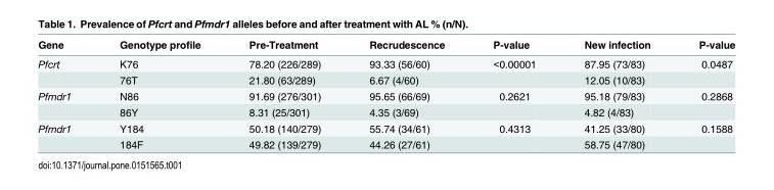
<table><thead><tr><td>Gene</td><td>Genotype profile</td><td>Pre-Treatment</td><td>Recrudescence</td><td>P-value</td><td>New infection</td><td>P-value</td></tr></thead><tbody><tr><td rowspan="2">Pfcrt</td><td>K76</td><td>78.20 (226/289)</td><td>93.33 (56/60)</td><td>&lt;0.00001</td><td>87.95 (73/83)</td><td>0.0487</td></tr><tr><td>76T</td><td>21.80 (63/289)</td><td>6.67 (4/60)</td><td></td><td>12.05 (10/83)</td><td></td></tr><tr><td rowspan="2">Pfmdr1</td><td>N86</td><td>91.69 (276/301)</td><td>95.65 (66/69)</td><td>0.2621</td><td>95.18 (79/83)</td><td>0.2868</td></tr><tr><td>86Y</td><td>8.31 (25/301)</td><td>4.35 (3/69)</td><td></td><td>4.82 (4/83)</td><td></td></tr><tr><td rowspan="2">Pfmdr1</td><td>Y184</td><td>50.18 (140/279)</td><td>55.74 (34/61)</td><td>0.4313</td><td>41.25 (33/80)</td><td>0.1588</td></tr><tr><td>184F</td><td>49.82 (139/279)</td><td>44.26 (27/61)</td><td></td><td>58.75 (47/80)</td><td></td></tr></tbody></table>